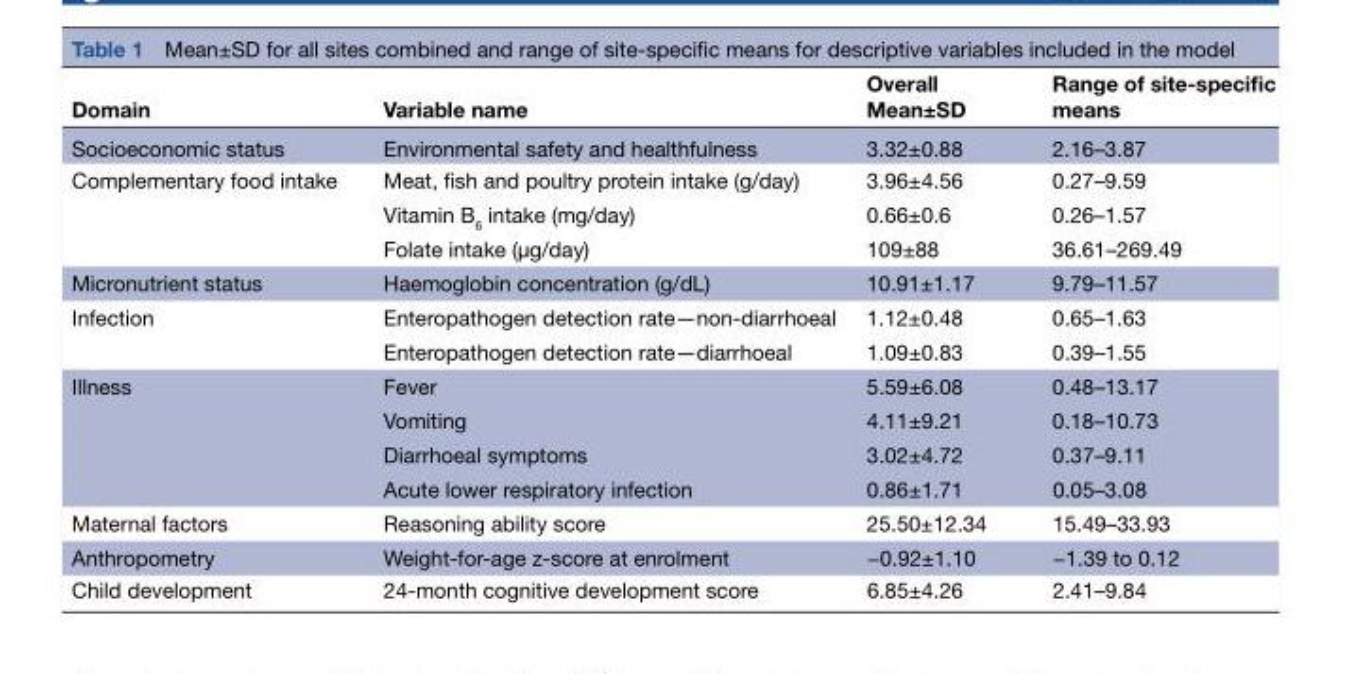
<table><thead><tr><td>Domain</td><td>Variable name</td><td>Overall Mean±SD</td><td>Range of site-specific means</td></tr></thead><tbody><tr><td>Socioeconomic status</td><td>Environmental safety and healthfulness</td><td>3.32±0.88</td><td>2.16–3.87</td></tr><tr><td rowspan="3">Complementary food intake</td><td>Meat, fish and poultry protein intake (g/day)</td><td>3.96±4.56</td><td>0.27–9.59</td></tr><tr><td>Vitamin B<sub>6</sub> intake (mg/day)</td><td>0.66±0.6</td><td>0.26–1.57</td></tr><tr><td>Folate intake (μg/day)</td><td>109±88</td><td>36.61–269.49</td></tr><tr><td>Micronutrient status</td><td>Haemoglobin concentration (g/dL)</td><td>10.91±1.17</td><td>9.79–11.57</td></tr><tr><td rowspan="2">Infection</td><td>Enteropathogen detection rate—non-diarrhoeal</td><td>1.12±0.48</td><td>0.65–1.63</td></tr><tr><td>Enteropathogen detection rate—diarrhoeal</td><td>1.09±0.83</td><td>0.39–1.55</td></tr><tr><td rowspan="4">Illness</td><td>Fever</td><td>5.59±6.08</td><td>0.48–13.17</td></tr><tr><td>Vomiting</td><td>4.11±9.21</td><td>0.18–10.73</td></tr><tr><td>Diarrhoeal symptoms</td><td>3.02±4.72</td><td>0.37–9.11</td></tr><tr><td>Acute lower respiratory infection</td><td>0.86±1.71</td><td>0.05–3.08</td></tr><tr><td>Maternal factors</td><td>Reasoning ability score</td><td>25.50±12.34</td><td>15.49–33.93</td></tr><tr><td>Anthropometry</td><td>Weight-for-age z-score at enrolment</td><td>−0.92±1.10</td><td>−1.39 to 0.12</td></tr><tr><td>Child development</td><td>24-month cognitive development score</td><td>6.85±4.26</td><td>2.41–9.84</td></tr></tbody></table>